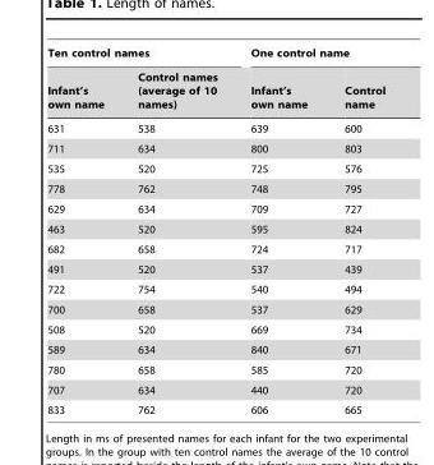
<table><thead><tr><td colspan="2">Ten control names</td><td colspan="2">One control name</td></tr><tr><td>Infant’s own name</td><td>Control names (average of 10 names)</td><td>Infant’s own name</td><td>Control name</td></tr></thead><tbody><tr><td>631</td><td>538</td><td>639</td><td>600</td></tr><tr><td>711</td><td>634</td><td>800</td><td>803</td></tr><tr><td>535</td><td>520</td><td>725</td><td>576</td></tr><tr><td>778</td><td>762</td><td>748</td><td>795</td></tr><tr><td>629</td><td>634</td><td>709</td><td>727</td></tr><tr><td>463</td><td>520</td><td>595</td><td>824</td></tr><tr><td>682</td><td>658</td><td>724</td><td>717</td></tr><tr><td>491</td><td>520</td><td>537</td><td>439</td></tr><tr><td>722</td><td>754</td><td>540</td><td>494</td></tr><tr><td>700</td><td>658</td><td>537</td><td>629</td></tr><tr><td>508</td><td>520</td><td>669</td><td>734</td></tr><tr><td>589</td><td>634</td><td>840</td><td>671</td></tr><tr><td>780</td><td>658</td><td>585</td><td>720</td></tr><tr><td>707</td><td>634</td><td>440</td><td>720</td></tr><tr><td>833</td><td>762</td><td>606</td><td>665</td></tr></tbody></table>